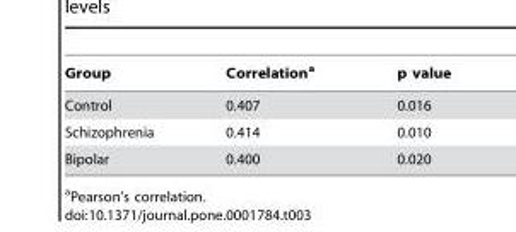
<table><thead><tr><td>Group</td><td>Correlation<sup>a</sup></td><td>p value</td></tr></thead><tbody><tr><td>Control</td><td>0.407</td><td>0.016</td></tr><tr><td>Schizophrenia</td><td>0.414</td><td>0.010</td></tr><tr><td>Bipolar</td><td>0.400</td><td>0.020</td></tr></tbody></table>